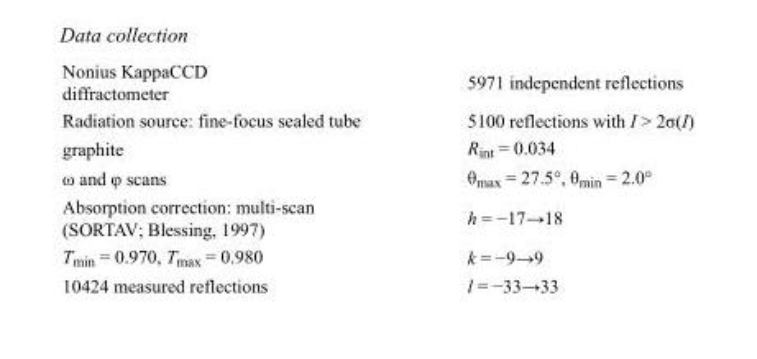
<table><tbody><tr><td>Nonius KappaCCD diffractometer</td><td>5971 independent reflections</td></tr><tr><td>Radiation source: fine-focus sealed tube</td><td>5100 reflections with I &gt; 2σ(I)</td></tr><tr><td>graphite</td><td>R<sub>int</sub> = 0.034</td></tr><tr><td>ω and φ scans</td><td>θ<sub>max</sub> = 27.5°, θ<sub>min</sub> = 2.0°</td></tr><tr><td>Absorption correction: multi-scan (SORTAV; Blessing, 1997)</td><td>h = −17→18</td></tr><tr><td>T<sub>min</sub> = 0.970, T<sub>max</sub> = 0.980</td><td>k = −9→9</td></tr><tr><td>10424 measured reflections</td><td>l = −33→33</td></tr></tbody></table>